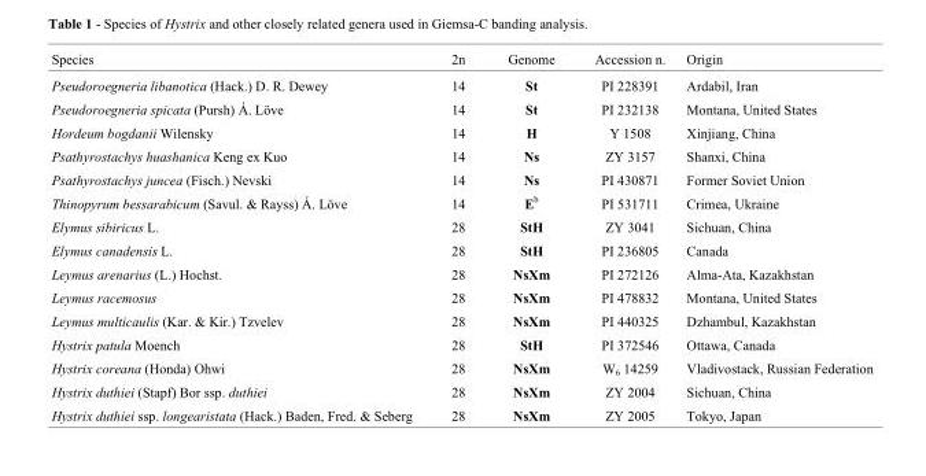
<table><thead><tr><td>Species</td><td>2n</td><td>Genome</td><td>Accession n.</td><td>Origin</td></tr></thead><tbody><tr><td>Pseudoroegneria libanotica (Hack.) D. R. Dewey</td><td>14</td><td>St</td><td>PI 228391</td><td>Ardabil, Iran</td></tr><tr><td>Pseudoroegneria spicata (Pursh) Á. Löve</td><td>14</td><td>St</td><td>PI 232138</td><td>Montana, United States</td></tr><tr><td>Hordeum bogdanii Wilensky</td><td>14</td><td>H</td><td>Y 1508</td><td>Xinjiang, China</td></tr><tr><td>Psathyrostachys huashanica Keng ex Kuo</td><td>14</td><td>Ns</td><td>ZY 3157</td><td>Shanxi, China</td></tr><tr><td>Psathyrostachys juncea (Fisch.) Nevski</td><td>14</td><td>Ns</td><td>PI 430871</td><td>Former Soviet Union</td></tr><tr><td>Thinopyrum bessarabicum (Savul. &amp; Rayss) Á. Löve</td><td>14</td><td>E<sup>b</sup></td><td>PI 531711</td><td>Crimea, Ukraine</td></tr><tr><td>Elymus sibiricus L.</td><td>28</td><td>StH</td><td>ZY 3041</td><td>Sichuan, China</td></tr><tr><td>Elymus canadensis L.</td><td>28</td><td>StH</td><td>PI 236805</td><td>Canada</td></tr><tr><td>Leymus arenarius (L.) Hochst.</td><td>28</td><td>NsXm</td><td>PI 272126</td><td>Alma-Ata, Kazakhstan</td></tr><tr><td>Leymus racemosus</td><td>28</td><td>NsXm</td><td>PI 478832</td><td>Montana, United States</td></tr><tr><td>Leymus multicaulis (Kar. &amp; Kir.) Tzvelev</td><td>28</td><td>NsXm</td><td>PI 440325</td><td>Dzhambul, Kazakhstan</td></tr><tr><td>Hystrix patula Moench</td><td>28</td><td>StH</td><td>PI 372546</td><td>Ottawa, Canada</td></tr><tr><td>Hystrix coreana (Honda) Ohwi</td><td>28</td><td>NsXm</td><td>W<sub>6</sub> 14259</td><td>Vladivostack, Russian Federation</td></tr><tr><td>Hystrix duthiei (Stapf) Bor ssp. duthiei</td><td>28</td><td>NsXm</td><td>ZY 2004</td><td>Sichuan, China</td></tr><tr><td>Hystrix duthiei ssp. longearistata (Hack.) Baden, Fred. &amp; Seberg</td><td>28</td><td>NsXm</td><td>ZY 2005</td><td>Tokyo, Japan</td></tr></tbody></table>